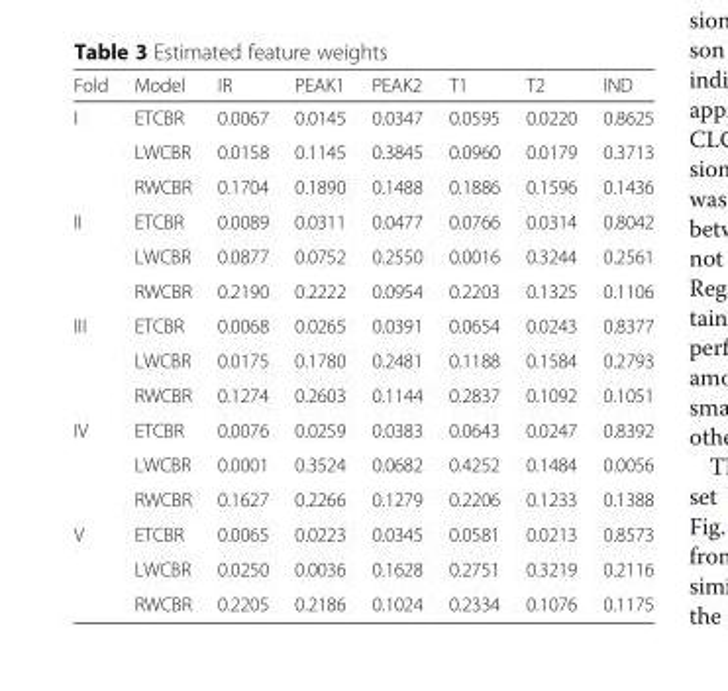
<table><thead><tr><td>Fold</td><td>Model</td><td>IR</td><td>PEAK1</td><td>PEAK2</td><td>T1</td><td>T2</td><td>IND</td></tr></thead><tbody><tr><td rowspan="3">I</td><td>ETCBR</td><td>0.0067</td><td>0.0145</td><td>0.0347</td><td>0.0595</td><td>0.0220</td><td>0.8625</td></tr><tr><td>LWCBR</td><td>0.0158</td><td>0.1145</td><td>0.3845</td><td>0.0960</td><td>0.0179</td><td>0.3713</td></tr><tr><td>RWCBR</td><td>0.1704</td><td>0.1890</td><td>0.1488</td><td>0.1886</td><td>0.1596</td><td>0.1436</td></tr><tr><td rowspan="3">II</td><td>ETCBR</td><td>0.0089</td><td>0.0311</td><td>0.0477</td><td>0.0766</td><td>0.0314</td><td>0.8042</td></tr><tr><td>LWCBR</td><td>0.0877</td><td>0.0752</td><td>0.2550</td><td>0.0016</td><td>0.3244</td><td>0.2561</td></tr><tr><td>RWCBR</td><td>0.2190</td><td>0.2222</td><td>0.0954</td><td>0.2203</td><td>0.1325</td><td>0.1106</td></tr><tr><td rowspan="3">III</td><td>ETCBR</td><td>0.0068</td><td>0.0265</td><td>0.0391</td><td>0.0654</td><td>0.0243</td><td>0.8377</td></tr><tr><td>LWCBR</td><td>0.0175</td><td>0.1780</td><td>0.2481</td><td>0.1188</td><td>0.1584</td><td>0.2793</td></tr><tr><td>RWCBR</td><td>0.1274</td><td>0.2603</td><td>0.1144</td><td>0.2837</td><td>0.1092</td><td>0.1051</td></tr><tr><td rowspan="3">IV</td><td>ETCBR</td><td>0.0076</td><td>0.0259</td><td>0.0383</td><td>0.0643</td><td>0.0247</td><td>0.8392</td></tr><tr><td>LWCBR</td><td>0.0001</td><td>0.3524</td><td>0.0682</td><td>0.4252</td><td>0.1484</td><td>0.0056</td></tr><tr><td>RWCBR</td><td>0.1627</td><td>0.2266</td><td>0.1279</td><td>0.2206</td><td>0.1233</td><td>0.1388</td></tr><tr><td rowspan="3">V</td><td>ETCBR</td><td>0.0065</td><td>0.0223</td><td>0.0345</td><td>0.0581</td><td>0.0213</td><td>0.8573</td></tr><tr><td>LWCBR</td><td>0.0250</td><td>0.0036</td><td>0.1628</td><td>0.2751</td><td>0.3219</td><td>0.2116</td></tr><tr><td>RWCBR</td><td>0.2205</td><td>0.2186</td><td>0.1024</td><td>0.2334</td><td>0.1076</td><td>0.1175</td></tr></tbody></table>